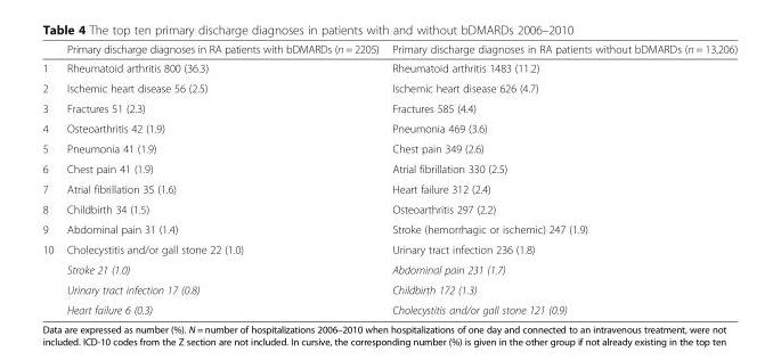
<table><thead><tr><td></td><td>Primary discharge diagnoses in RA patients with bDMARDs (n = 2205)</td><td>Primary discharge diagnoses in RA patients without bDMARDs (n = 13,206)</td></tr></thead><tbody><tr><td>1</td><td>Rheumatoid arthritis 800 (36.3)</td><td>Rheumatoid arthritis 1483 (11.2)</td></tr><tr><td>2</td><td>Ischemic heart disease 56 (2.5)</td><td>Ischemic heart disease 626 (4.7)</td></tr><tr><td>3</td><td>Fractures 51 (2.3)</td><td>Fractures 585 (4.4)</td></tr><tr><td>4</td><td>Osteoarthritis 42 (1.9)</td><td>Pneumonia 469 (3.6)</td></tr><tr><td>5</td><td>Pneumonia 41 (1.9)</td><td>Chest pain 349 (2.6)</td></tr><tr><td>6</td><td>Chest pain 41 (1.9)</td><td>Atrial fibrillation 330 (2.5)</td></tr><tr><td>7</td><td>Atrial fibrillation 35 (1.6)</td><td>Heart failure 312 (2.4)</td></tr><tr><td>8</td><td>Childbirth 34 (1.5)</td><td>Osteoarthritis 297 (2.2)</td></tr><tr><td>9</td><td>Abdominal pain 31 (1.4)</td><td>Stroke (hemorrhagic or ischemic) 247 (1.9)</td></tr><tr><td rowspan="4">10</td><td>Cholecystitis and/or gall stone 22 (1.0)</td><td>Urinary tract infection 236 (1.8)</td></tr><tr><td>Stroke 21 (1.0)</td><td>Abdominal pain 231 (1.7)</td></tr><tr><td>Urinary tract infection 17 (0.8)</td><td>Childbirth 172 (1.3)</td></tr><tr><td>Heart failure 6 (0.3)</td><td>Cholecystitis and/or gall stone 121 (0.9)</td></tr></tbody></table>